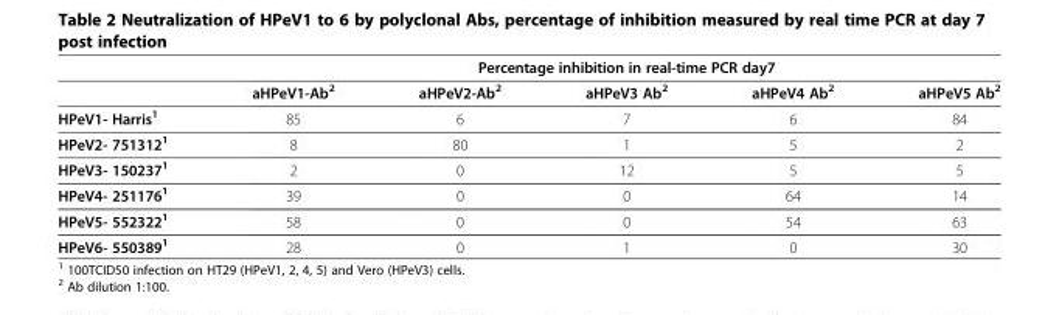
<table><thead><tr><td rowspan="2"></td><td colspan="5">Percentage inhibition in real-time PCR day7</td></tr><tr><td>aHPeV1-Ab<sup>2</sup></td><td>aHPeV2-Ab<sup>2</sup></td><td>aHPeV3 Ab<sup>2</sup></td><td>aHPeV4 Ab<sup>2</sup></td><td>aHPeV5 Ab<sup>2</sup></td></tr></thead><tbody><tr><td>HPeV1- Harris<sup>1</sup></td><td>85</td><td>6</td><td>7</td><td>6</td><td>84</td></tr><tr><td>HPeV2- 751312<sup>1</sup></td><td>8</td><td>80</td><td>1</td><td>5</td><td>2</td></tr><tr><td>HPeV3- 150237<sup>1</sup></td><td>2</td><td>0</td><td>12</td><td>5</td><td>5</td></tr><tr><td>HPeV4- 251176<sup>1</sup></td><td>39</td><td>0</td><td>0</td><td>64</td><td>14</td></tr><tr><td>HPeV5- 552322<sup>1</sup></td><td>58</td><td>0</td><td>0</td><td>54</td><td>63</td></tr><tr><td>HPeV6- 550389<sup>1</sup></td><td>28</td><td>0</td><td>1</td><td>0</td><td>30</td></tr></tbody></table>